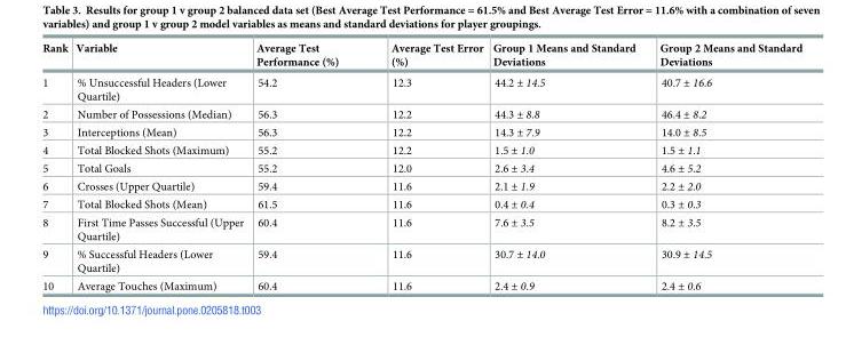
<table><thead><tr><td>Rank</td><td>Variable</td><td>Average Test Performance (%)</td><td>Average Test Error (%)</td><td>Group 1 Means and Standard Deviations</td><td>Group 2 Means and Standard Deviations</td></tr></thead><tbody><tr><td>1</td><td>% Unsuccessful Headers (Lower Quartile)</td><td>54.2</td><td>12.3</td><td>44.2 ± 14.5</td><td>40.7 ± 16.6</td></tr><tr><td>2</td><td>Number of Possessions (Median)</td><td>56.3</td><td>12.2</td><td>44.3 ± 8.8</td><td>46.4 ± 8.2</td></tr><tr><td>3</td><td>Interceptions (Mean)</td><td>56.3</td><td>12.2</td><td>14.3 ± 7.9</td><td>14.0 ± 8.5</td></tr><tr><td>4</td><td>Total Blocked Shots (Maximum)</td><td>55.2</td><td>12.2</td><td>1.5 ± 1.0</td><td>1.5 ± 1.1</td></tr><tr><td>5</td><td>Total Goals</td><td>55.2</td><td>12.0</td><td>2.6 ± 3.4</td><td>4.6 ± 5.2</td></tr><tr><td>6</td><td>Crosses (Upper Quartile)</td><td>59.4</td><td>11.6</td><td>2.1 ± 1.9</td><td>2.2 ± 2.0</td></tr><tr><td>7</td><td>Total Blocked Shots (Mean)</td><td>61.5</td><td>11.6</td><td>0.4 ± 0.4</td><td>0.3 ± 0.3</td></tr><tr><td>8</td><td>First Time Passes Successful (Upper Quartile)</td><td>60.4</td><td>11.6</td><td>7.6 ± 3.5</td><td>8.2 ± 3.5</td></tr><tr><td>9</td><td>% Successful Headers (Lower Quartile)</td><td>59.4</td><td>11.6</td><td>30.7 ± 14.0</td><td>30.9 ± 14.5</td></tr><tr><td>10</td><td>Average Touches (Maximum)</td><td>60.4</td><td>11.6</td><td>2.4 ± 0.9</td><td>2.4 ± 0.6</td></tr></tbody></table>